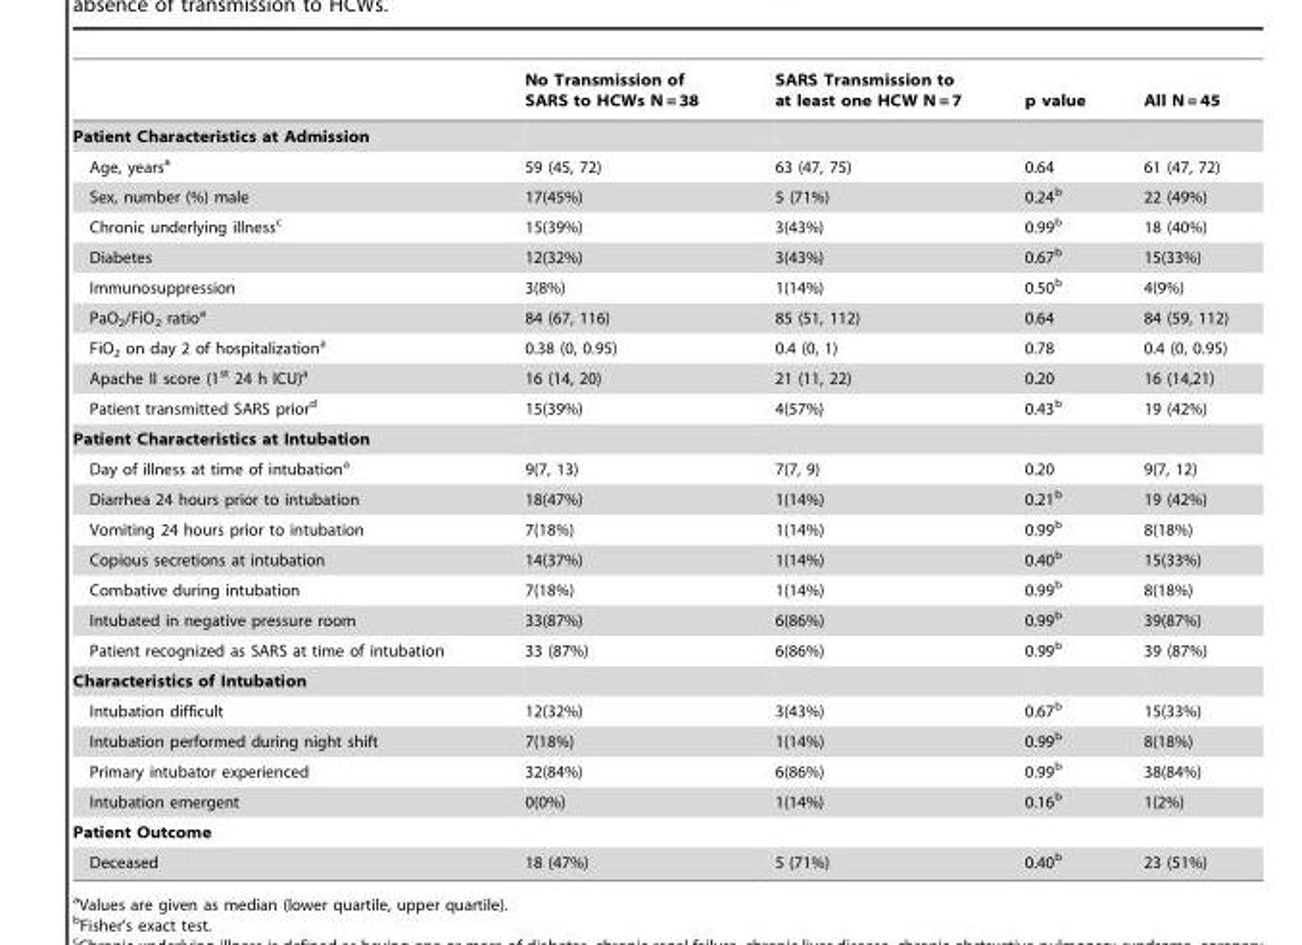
<table><thead><tr><td></td><td>No Transmission of SARS to HCWs N = 38</td><td>SARS Transmission to at least one HCW N = 7</td><td>p value</td><td>All N = 45</td></tr></thead><tbody><tr><td colspan="5">Patient Characteristics at Admission</td></tr><tr><td>Age, years<sup>a</sup></td><td>59 (45, 72)</td><td>63 (47, 75)</td><td>0.64</td><td>61 (47, 72)</td></tr><tr><td>Sex, number (%) male</td><td>17(45%)</td><td>5 (71%)</td><td>0.24<sup>b</sup></td><td>22 (49%)</td></tr><tr><td>Chronic underlying illness<sup>c</sup></td><td>15(39%)</td><td>3(43%)</td><td>0.99<sup>b</sup></td><td>18 (40%)</td></tr><tr><td>Diabetes</td><td>12(32%)</td><td>3(43%)</td><td>0.67<sup>b</sup></td><td>15(33%)</td></tr><tr><td>Immunosuppression</td><td>3(8%)</td><td>1(14%)</td><td>0.50<sup>b</sup></td><td>4(9%)</td></tr><tr><td>PaO<sub>2</sub>/FiO<sub>2</sub> ratio<sup>a</sup></td><td>84 (67, 116)</td><td>85 (51, 112)</td><td>0.64</td><td>84 (59, 112)</td></tr><tr><td>FiO<sub>2</sub> on day 2 of hospitalization<sup>a</sup></td><td>0.38 (0, 0.95)</td><td>0.4 (0, 1)</td><td>0.78</td><td>0.4 (0, 0.95)</td></tr><tr><td>Apache II score (1<sup>st</sup> 24 h ICU)<sup>a</sup></td><td>16 (14, 20)</td><td>21 (11, 22)</td><td>0.20</td><td>16 (14,21)</td></tr><tr><td>Patient transmitted SARS prior<sup>d</sup></td><td>15(39%)</td><td>4(57%)</td><td>0.43<sup>b</sup></td><td>19 (42%)</td></tr><tr><td colspan="5">Patient Characteristics at Intubation</td></tr><tr><td>Day of illness at time of intubation<sup>a</sup></td><td>9(7, 13)</td><td>7(7, 9)</td><td>0.20</td><td>9(7, 12)</td></tr><tr><td>Diarrhea 24 hours prior to intubation</td><td>18(47%)</td><td>1(14%)</td><td>0.21<sup>b</sup></td><td>19 (42%)</td></tr><tr><td>Vomiting 24 hours prior to intubation</td><td>7(18%)</td><td>1(14%)</td><td>0.99<sup>b</sup></td><td>8(18%)</td></tr><tr><td>Copious secretions at intubation</td><td>14(37%)</td><td>1(14%)</td><td>0.40<sup>b</sup></td><td>15(33%)</td></tr><tr><td>Combative during intubation</td><td>7(18%)</td><td>1(14%)</td><td>0.99<sup>b</sup></td><td>8(18%)</td></tr><tr><td>Intubated in negative pressure room</td><td>33(87%)</td><td>6(86%)</td><td>0.99<sup>b</sup></td><td>39(87%)</td></tr><tr><td>Patient recognized as SARS at time of intubation</td><td>33 (87%)</td><td>6(86%)</td><td>0.99<sup>b</sup></td><td>39 (87%)</td></tr><tr><td colspan="5">Characteristics of Intubation</td></tr><tr><td>Intubation difficult</td><td>12(32%)</td><td>3(43%)</td><td>0.67<sup>b</sup></td><td>15(33%)</td></tr><tr><td>Intubation performed during night shift</td><td>7(18%)</td><td>1(14%)</td><td>0.99<sup>b</sup></td><td>8(18%)</td></tr><tr><td>Primary intubator experienced</td><td>32(84%)</td><td>6(86%)</td><td>0.99<sup>b</sup></td><td>38(84%)</td></tr><tr><td>Intubation emergent</td><td>0(0%)</td><td>1(14%)</td><td>0.16<sup>b</sup></td><td>1(2%)</td></tr><tr><td colspan="5">Patient Outcome</td></tr><tr><td>Deceased</td><td>18 (47%)</td><td>5 (71%)</td><td>0.40<sup>b</sup></td><td>23 (51%)</td></tr></tbody></table>